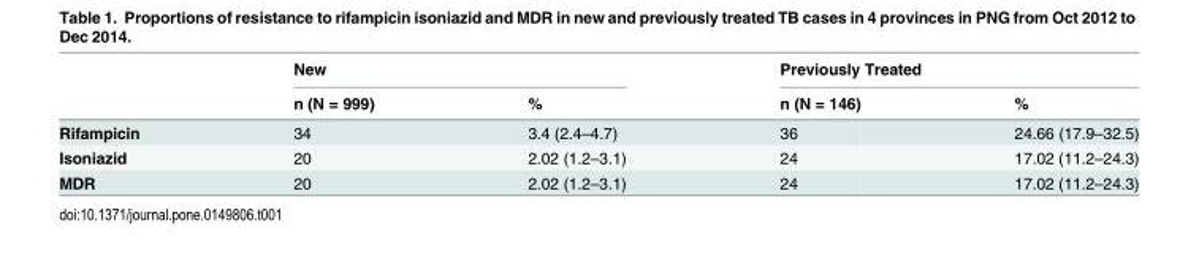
<table><thead><tr><td rowspan="2"></td><td colspan="2">New</td><td colspan="2">Previously Treated</td></tr><tr><td>n (N = 999)</td><td>%</td><td>n (N = 146)</td><td>%</td></tr></thead><tbody><tr><td>Rifampicin</td><td>34</td><td>3.4 (2.4–4.7)</td><td>36</td><td>24.66 (17.9–32.5)</td></tr><tr><td>Isoniazid</td><td>20</td><td>2.02 (1.2–3.1)</td><td>24</td><td>17.02 (11.2–24.3)</td></tr><tr><td>MDR</td><td>20</td><td>2.02 (1.2–3.1)</td><td>24</td><td>17.02 (11.2–24.3)</td></tr></tbody></table>